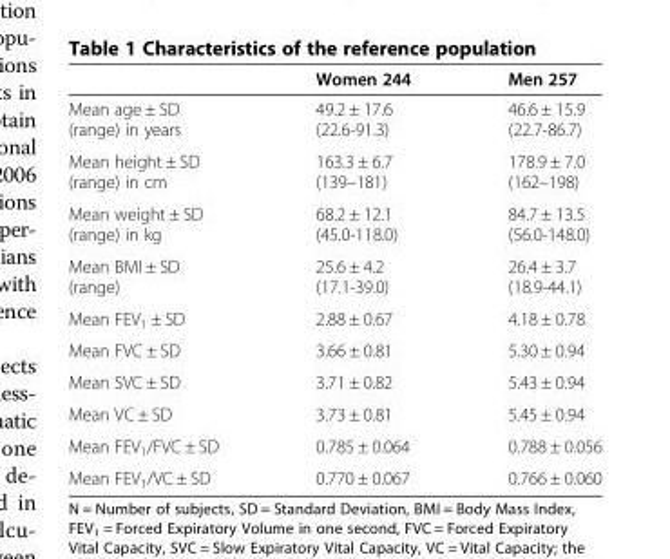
<table><thead><tr><td></td><td>Women 244</td><td>Men 257</td></tr></thead><tbody><tr><td>Mean age ± SD (range) in years</td><td>49.2 ± 17.6 (22.6-91.3)</td><td>46.6 ± 15.9 (22.7-86.7)</td></tr><tr><td>Mean height ± SD (range) in cm</td><td>163.3 ± 6.7 (139–181)</td><td>178.9 ± 7.0 (162–198)</td></tr><tr><td>Mean weight ± SD (range) in kg</td><td>68.2 ± 12.1 (45.0-118.0)</td><td>84.7 ± 13.5 (56.0-148.0)</td></tr><tr><td>Mean BMI ± SD (range)</td><td>25.6 ± 4.2 (17.1-39.0)</td><td>26.4 ± 3.7 (18.9-44.1)</td></tr><tr><td>Mean FEV<sub>1</sub> ± SD</td><td>2.88 ± 0.67</td><td>4.18 ± 0.78</td></tr><tr><td>Mean FVC ± SD</td><td>3.66 ± 0.81</td><td>5.30 ± 0.94</td></tr><tr><td>Mean SVC ± SD</td><td>3.71 ± 0.82</td><td>5.43 ± 0.94</td></tr><tr><td>Mean VC ± SD</td><td>3.73 ± 0.81</td><td>5.45 ± 0.94</td></tr><tr><td>Mean FEV<sub>1</sub>/FVC ± SD</td><td>0.785 ± 0.064</td><td>0.788 ± 0.056</td></tr><tr><td>Mean FEV<sub>1</sub>/VC ± SD</td><td>0.770 ± 0.067</td><td>0.766 ± 0.060</td></tr></tbody></table>